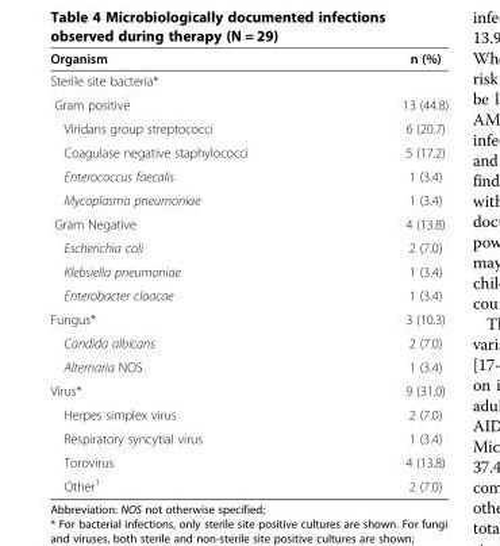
<table><thead><tr><td>Organism</td><td>n (%)</td></tr></thead><tbody><tr><td colspan="2">Sterile site bacteria*</td></tr><tr><td>Gram positive</td><td>13 (44.8)</td></tr><tr><td>Viridans group streptococci</td><td>6 (20.7)</td></tr><tr><td>Coagulase negative staphylococci</td><td>5 (17.2)</td></tr><tr><td>Enterococcus faecalis</td><td>1 (3.4)</td></tr><tr><td>Mycoplasma pneumoniae</td><td>1 (3.4)</td></tr><tr><td>Gram Negative</td><td>4 (13.8)</td></tr><tr><td>Escherichia coli</td><td>2 (7.0)</td></tr><tr><td>Klebsiella pneumoniae</td><td>1 (3.4)</td></tr><tr><td>Enterobacter cloacae</td><td>1 (3.4)</td></tr><tr><td>Fungus*</td><td>3 (10.3)</td></tr><tr><td>Candida albicans</td><td>2 (7.0)</td></tr><tr><td>Alternaria NOS</td><td>1 (3.4)</td></tr><tr><td>Virus*</td><td>9 (31.0)</td></tr><tr><td>Herpes simplex virus</td><td>2 (7.0)</td></tr><tr><td>Respiratory syncytial virus</td><td>1 (3.4)</td></tr><tr><td>Torovirus</td><td>4 (13.8)</td></tr><tr><td>Other<sup>1</sup></td><td>2 (7.0)</td></tr></tbody></table>